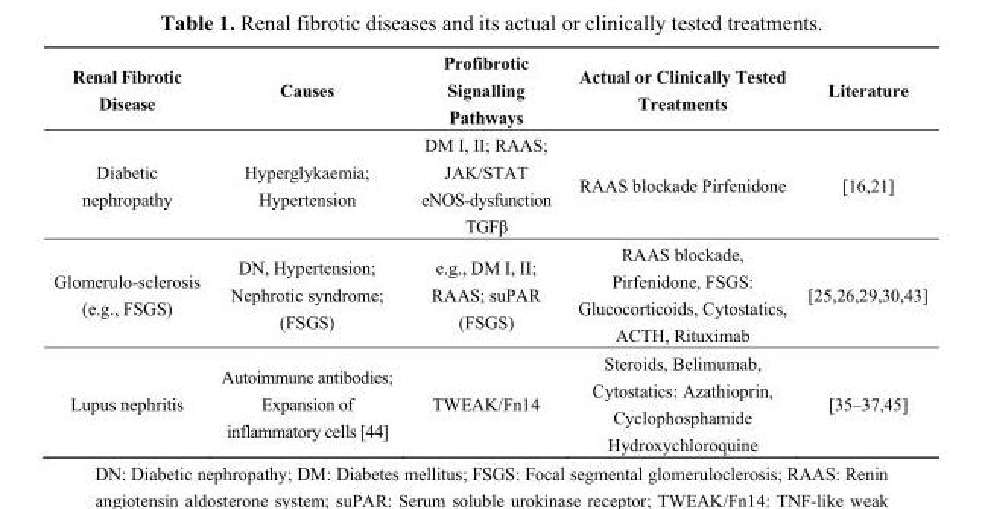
<table><thead><tr><td>Renal Fibrotic Disease</td><td>Causes</td><td>Profibrotic Signalling Pathways</td><td>Actual or Clinically Tested Treatments</td><td>Literature</td></tr></thead><tbody><tr><td>Diabetic nephropathy</td><td>Hyperglykaemia; Hypertension</td><td>DM I, II; RAAS; JAK/STAT eNOS-dysfunction TGFβ</td><td>RAAS blockade Pirfenidone</td><td>[16,21]</td></tr><tr><td>Glomerulo-sclerosis (e.g., FSGS)</td><td>DN, Hypertension; Nephrotic syndrome; (FSGS)</td><td>e.g., DM I, II; RAAS; suPAR (FSGS)</td><td>RAAS blockade, Pirfenidone, FSGS: Glucocorticoids, Cytostatics, ACTH, Rituximab</td><td>[25,26,29,30,43]</td></tr><tr><td>Lupus nephritis</td><td>Autoimmune antibodies; Expansion of inflammatory cells [44]</td><td>TWEAK/Fn14</td><td>Steroids, Belimumab, Cytostatics: Azathioprin, Cyclophosphamide Hydroxychloroquine</td><td>[35–37,45]</td></tr></tbody></table>